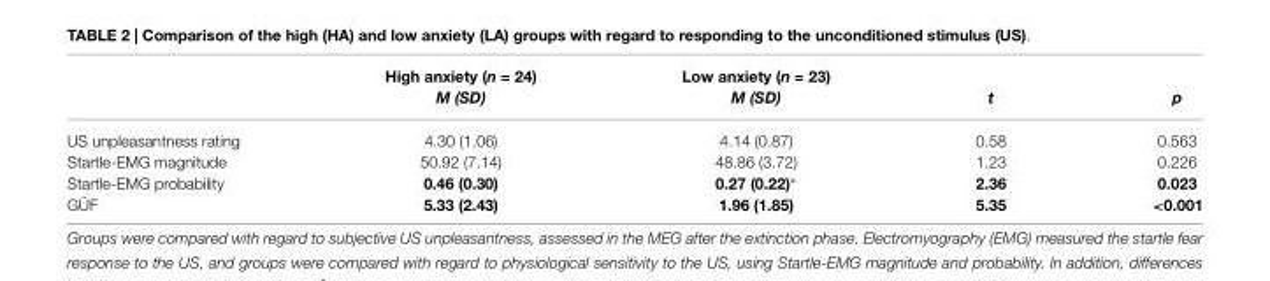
<table><thead><tr><td></td><td>High anxiety (n = 24) M (SD)</td><td>Low anxiety (n = 23) M (SD)</td><td>t</td><td>p</td></tr></thead><tbody><tr><td>US unpleasantness rating</td><td>4.30 (1.06)</td><td>4.14 (0.87)</td><td>0.58</td><td>0.563</td></tr><tr><td>Startle-EMG magnitude</td><td>50.92 (7.14)</td><td>48.86 (3.72)</td><td>1.23</td><td>0.226</td></tr><tr><td>Startle-EMG probability</td><td>0.46 (0.30)</td><td>0.27 (0.22)∗</td><td>2.36</td><td>0.023</td></tr><tr><td>GÜF</td><td>5.33 (2.43)</td><td>1.96 (1.85)</td><td>5.35</td><td>&lt;0.001</td></tr></tbody></table>